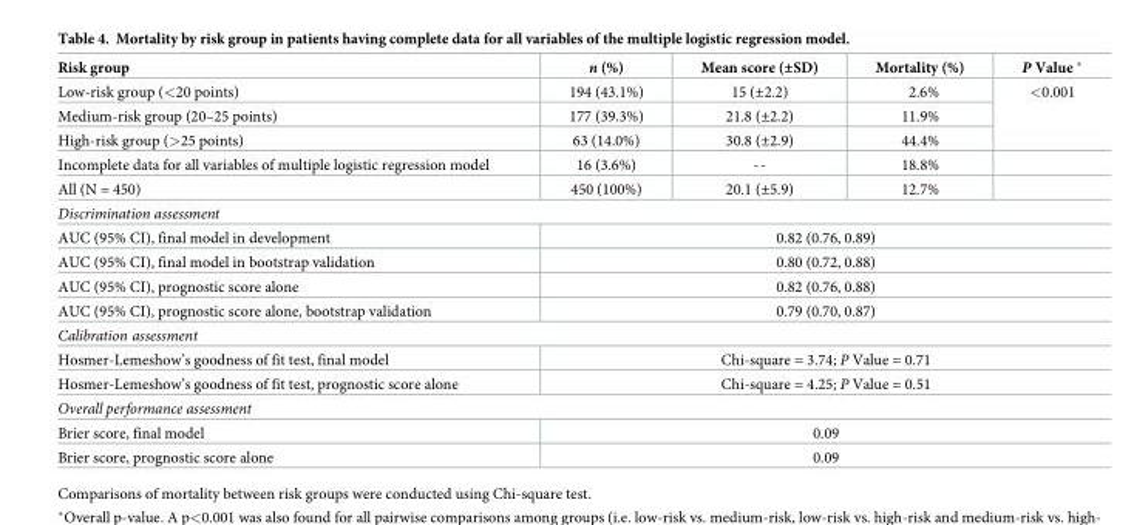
<table><thead><tr><td>Risk group</td><td>n (%)</td><td>Mean score (±SD)</td><td>Mortality (%)</td><td>P Value</td></tr></thead><tbody><tr><td>Low-risk group (&lt;20 points)</td><td>194 (43.1%)</td><td>15 (±2.2)</td><td>2.6%</td><td rowspan="3">&lt;0.001</td></tr><tr><td>Medium-risk group (20–25 points)</td><td>177 (39.3%)</td><td>21.8 (±2.2)</td><td>11.9%</td></tr><tr><td>High-risk group (&gt;25 points)</td><td>63 (14.0%)</td><td>30.8 (±2.9)</td><td>44.4%</td></tr><tr><td>Incomplete data for all variables of multiple logistic regression model</td><td>16 (3.6%)</td><td>--</td><td>18.8%</td><td></td></tr><tr><td>All (N = 450)</td><td>450 (100%)</td><td>20.1 (±5.9)</td><td>12.7%</td><td></td></tr><tr><td colspan="5">Discrimination assessment</td></tr><tr><td>AUC (95% CI), final model in development</td><td colspan="4">0.82 (0.76, 0.89)</td></tr><tr><td>AUC (95% CI), final model in bootstrap validation</td><td colspan="4">0.80 (0.72, 0.88)</td></tr><tr><td>AUC (95% CI), prognostic score alone</td><td colspan="4">0.82 (0.76, 0.88)</td></tr><tr><td>AUC (95% CI), prognostic score alone, bootstrap validation</td><td colspan="4">0.79 (0.70, 0.87)</td></tr><tr><td colspan="5">Calibration assessment</td></tr><tr><td>Hosmer-Lemeshow’s goodness of fit test, final model</td><td colspan="4">Chi-square = 3.74; P Value = 0.71</td></tr><tr><td>Hosmer-Lemeshow’s goodness of fit test, prognostic score alone</td><td colspan="4">Chi-square = 4.25; P Value = 0.51</td></tr><tr><td colspan="5">Overall performance assessment</td></tr><tr><td>Brier score, final model</td><td colspan="4">0.09</td></tr><tr><td>Brier score, prognostic score alone</td><td colspan="4">0.09</td></tr></tbody></table>